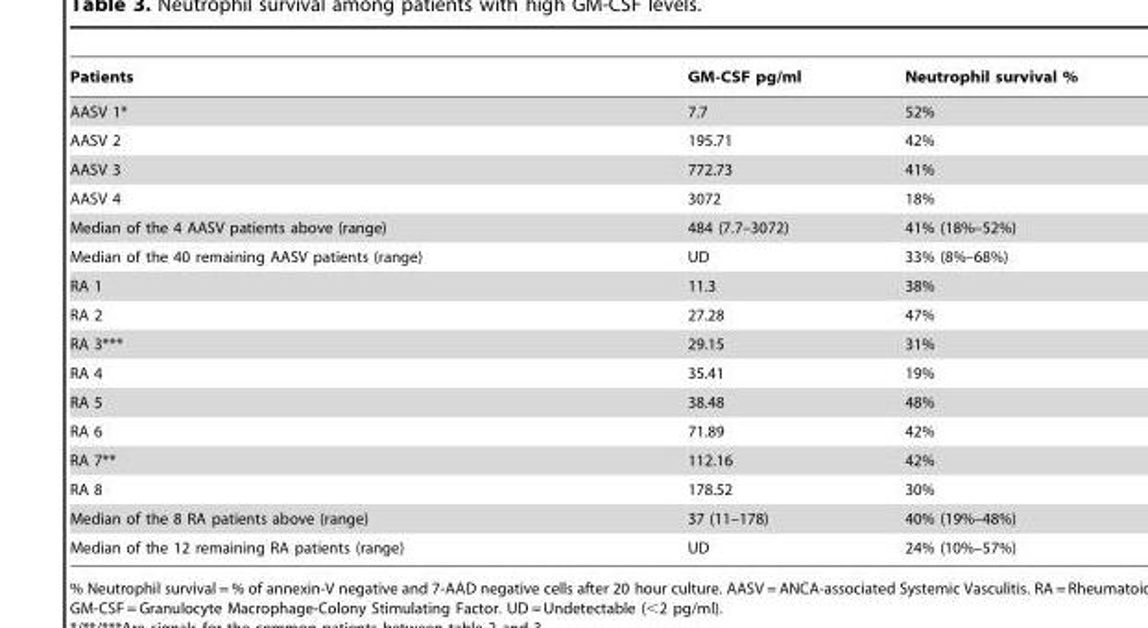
<table><thead><tr><td>Patients</td><td>GM-CSF pg/ml</td><td>Neutrophil survival %</td></tr></thead><tbody><tr><td>AASV 1*</td><td>7.7</td><td>52%</td></tr><tr><td>AASV 2</td><td>195.71</td><td>42%</td></tr><tr><td>AASV 3</td><td>772.73</td><td>41%</td></tr><tr><td>AASV 4</td><td>3072</td><td>18%</td></tr><tr><td>Median of the 4 AASV patients above (range)</td><td>484 (7.7–3072)</td><td>41% (18%–52%)</td></tr><tr><td>Median of the 40 remaining AASV patients (range)</td><td>UD</td><td>33% (8%–68%)</td></tr><tr><td>RA 1</td><td>11.3</td><td>38%</td></tr><tr><td>RA 2</td><td>27.28</td><td>47%</td></tr><tr><td>RA 3***</td><td>29.15</td><td>31%</td></tr><tr><td>RA 4</td><td>35.41</td><td>19%</td></tr><tr><td>RA 5</td><td>38.48</td><td>48%</td></tr><tr><td>RA 6</td><td>71.89</td><td>42%</td></tr><tr><td>RA 7**</td><td>112.16</td><td>42%</td></tr><tr><td>RA 8</td><td>178.52</td><td>30%</td></tr><tr><td>Median of the 8 RA patients above (range)</td><td>37 (11–178)</td><td>40% (19%–48%)</td></tr><tr><td>Median of the 12 remaining RA patients (range)</td><td>UD</td><td>24% (10%–57%)</td></tr></tbody></table>